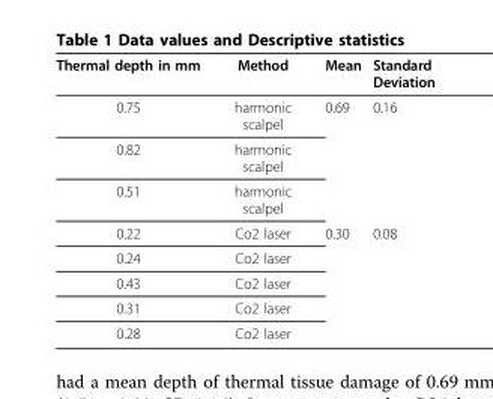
<table><thead><tr><td>Thermal depth in mm</td><td>Method</td><td>Mean</td><td>Standard Deviation</td></tr></thead><tbody><tr><td>0.75</td><td>harmonic scalpel</td><td>0.69</td><td>0.16</td></tr><tr><td>0.82</td><td>harmonic scalpel</td><td></td><td></td></tr><tr><td>0.51</td><td>harmonic scalpel</td><td></td><td></td></tr><tr><td>0.22</td><td>Co2 laser</td><td>0.30</td><td>0.08</td></tr><tr><td>0.24</td><td>Co2 laser</td><td></td><td></td></tr><tr><td>0.43</td><td>Co2 laser</td><td></td><td></td></tr><tr><td>0.31</td><td>Co2 laser</td><td></td><td></td></tr><tr><td>0.28</td><td>Co2 laser</td><td></td><td></td></tr></tbody></table>